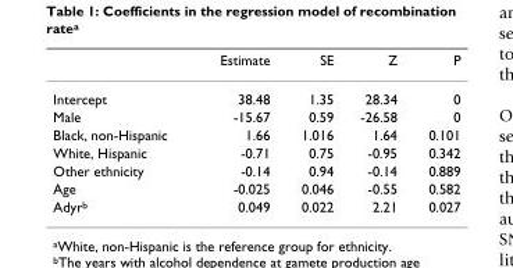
<table><thead><tr><td></td><td>Estimate</td><td>SE</td><td>Z</td><td>P</td></tr></thead><tbody><tr><td>Intercept</td><td>38.48</td><td>1.35</td><td>28.34</td><td>0</td></tr><tr><td>Male</td><td>-15.67</td><td>0.59</td><td>-26.58</td><td>0</td></tr><tr><td>Black, non-Hispanic</td><td>1.66</td><td>1.016</td><td>1.64</td><td>0.101</td></tr><tr><td>White, Hispanic</td><td>-0.71</td><td>0.75</td><td>-0.95</td><td>0.342</td></tr><tr><td>Other ethnicity</td><td>-0.14</td><td>0.94</td><td>-0.14</td><td>0.889</td></tr><tr><td>Age</td><td>-0.025</td><td>0.046</td><td>-0.55</td><td>0.582</td></tr><tr><td>Adyrb</td><td>0.049</td><td>0.022</td><td>2.21</td><td>0.027</td></tr></tbody></table>